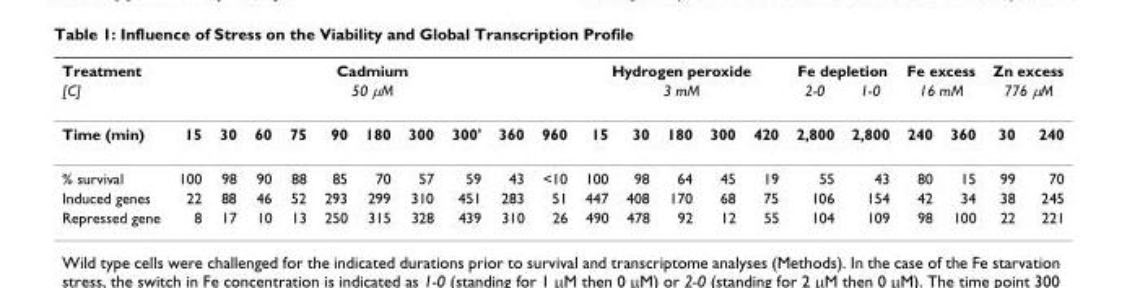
<table><thead><tr><td rowspan="3">Treatment [C] Time (min)</td><td rowspan="2" colspan="10">Cadmium 50 µM</td><td rowspan="2" colspan="5">Hydrogen peroxide 3 mM</td><td colspan="2">Fe depletion</td><td rowspan="2" colspan="2">Fe excess 16 mM</td><td rowspan="2" colspan="2">Zn excess 776 µM</td></tr><tr><td rowspan="2">2-0 2,800</td><td rowspan="2">1-0 2,800</td></tr><tr><td>15</td><td>30</td><td>60</td><td>75</td><td>90</td><td>180</td><td>300</td><td>300&#x27;</td><td>360</td><td>960</td><td>15</td><td>30</td><td>180</td><td>300</td><td>420</td><td>240</td><td>360</td><td>30</td><td>240</td></tr></thead><tbody><tr><td>% survival</td><td>100</td><td>98</td><td>90</td><td>88</td><td>85</td><td>70</td><td>57</td><td>59</td><td>43</td><td>&lt;10</td><td>100</td><td>98</td><td>64</td><td>45</td><td>19</td><td>55</td><td>43</td><td>80</td><td>15</td><td>99</td><td>70</td></tr><tr><td>Induced genes</td><td>22</td><td>88</td><td>46</td><td>52</td><td>293</td><td>299</td><td>310</td><td>451</td><td>283</td><td>51</td><td>447</td><td>408</td><td>170</td><td>68</td><td>75</td><td>106</td><td>154</td><td>42</td><td>34</td><td>38</td><td>245</td></tr><tr><td>Repressed gene</td><td>8</td><td>17</td><td>10</td><td>13</td><td>250</td><td>315</td><td>328</td><td>439</td><td>310</td><td>26</td><td>490</td><td>478</td><td>92</td><td>12</td><td>55</td><td>104</td><td>109</td><td>98</td><td>100</td><td>22</td><td>221</td></tr></tbody></table>